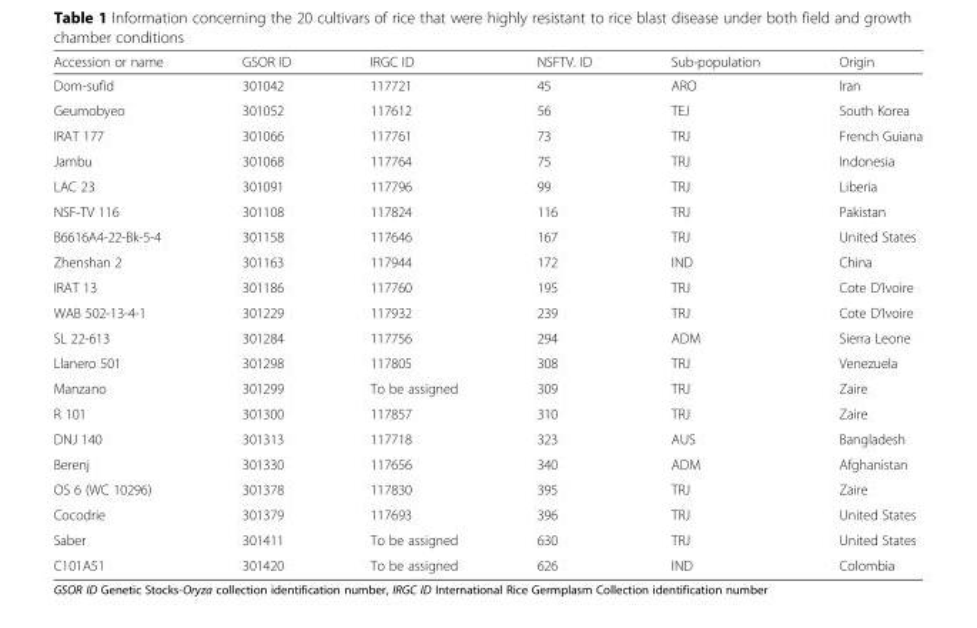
<table><thead><tr><td>Accession or name</td><td>GSOR ID</td><td>IRGC ID</td><td>NSFTV. ID</td><td>Sub-population</td><td>Origin</td></tr></thead><tbody><tr><td>Dom-sufid</td><td>301042</td><td>117721</td><td>45</td><td>ARO</td><td>Iran</td></tr><tr><td>Geumobyeo</td><td>301052</td><td>117612</td><td>56</td><td>TEJ</td><td>South Korea</td></tr><tr><td>IRAT 177</td><td>301066</td><td>117761</td><td>73</td><td>TRJ</td><td>French Guiana</td></tr><tr><td>Jambu</td><td>301068</td><td>117764</td><td>75</td><td>TRJ</td><td>Indonesia</td></tr><tr><td>LAC 23</td><td>301091</td><td>117796</td><td>99</td><td>TRJ</td><td>Liberia</td></tr><tr><td>NSF-TV 116</td><td>301108</td><td>117824</td><td>116</td><td>TRJ</td><td>Pakistan</td></tr><tr><td>B6616A4-22-Bk-5-4</td><td>301158</td><td>117646</td><td>167</td><td>TRJ</td><td>United States</td></tr><tr><td>Zhenshan 2</td><td>301163</td><td>117944</td><td>172</td><td>IND</td><td>China</td></tr><tr><td>IRAT 13</td><td>301186</td><td>117760</td><td>195</td><td>TRJ</td><td>Cote D’Ivoire</td></tr><tr><td>WAB 502-13-4-1</td><td>301229</td><td>117932</td><td>239</td><td>TRJ</td><td>Cote D’Ivoire</td></tr><tr><td>SL 22-613</td><td>301284</td><td>117756</td><td>294</td><td>ADM</td><td>Sierra Leone</td></tr><tr><td>Llanero 501</td><td>301298</td><td>117805</td><td>308</td><td>TRJ</td><td>Venezuela</td></tr><tr><td>Manzano</td><td>301299</td><td>To be assigned</td><td>309</td><td>TRJ</td><td>Zaire</td></tr><tr><td>R 101</td><td>301300</td><td>117857</td><td>310</td><td>TRJ</td><td>Zaire</td></tr><tr><td>DNJ 140</td><td>301313</td><td>117718</td><td>323</td><td>AUS</td><td>Bangladesh</td></tr><tr><td>Berenj</td><td>301330</td><td>117656</td><td>340</td><td>ADM</td><td>Afghanistan</td></tr><tr><td>OS 6 (WC 10296)</td><td>301378</td><td>117830</td><td>395</td><td>TRJ</td><td>Zaire</td></tr><tr><td>Cocodrie</td><td>301379</td><td>117693</td><td>396</td><td>TRJ</td><td>United States</td></tr><tr><td>Saber</td><td>301411</td><td>To be assigned</td><td>630</td><td>TRJ</td><td>United States</td></tr><tr><td>C101A51</td><td>301420</td><td>To be assigned</td><td>626</td><td>IND</td><td>Colombia</td></tr></tbody></table>